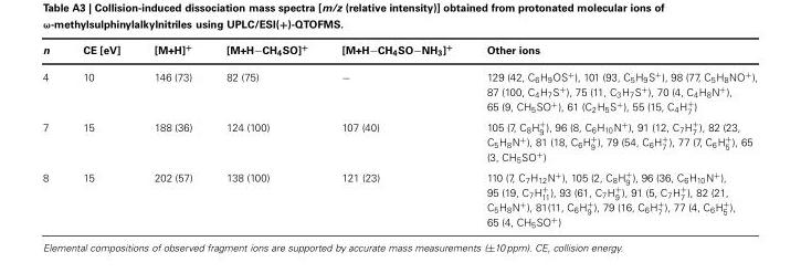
<table><thead><tr><td>n</td><td>CE [eV]</td><td>[M+H]<sup>+</sup></td><td>[M+H−CH<sub>4</sub>SO]<sup>+</sup></td><td>[M+H−CH<sub>4</sub>SO−NH<sub>3</sub>]<sup>+</sup></td><td>Other ions</td></tr></thead><tbody><tr><td>4</td><td>10</td><td>146 (73)</td><td>82 (75)</td><td>−</td><td>129 (42, C<sub>6</sub>H<sub>9</sub>OS<sup>+</sup>), 101 (93, C<sub>5</sub>H<sub>9</sub>S<sup>+</sup>), 98 (77, C<sub>5</sub>H<sub>8</sub>NO<sup>+</sup>), 87 (100, C<sub>4</sub>H<sub>7</sub>S<sup>+</sup>), 75 (11, C<sub>3</sub>H<sub>7</sub>S<sup>+</sup>), 70 (4, C<sub>4</sub>H<sub>8</sub>N<sup>+</sup>), 65 (9, CH<sub>5</sub>SO<sup>+</sup>), 61 (C<sub>2</sub>H<sub>5</sub>S<sup>+</sup>), 55 (15, C<sub>4</sub>H<sup>+</sup> <sub>7</sub> )</td></tr><tr><td>7</td><td>15</td><td>188 (36)</td><td>124 (100)</td><td>107 (40)</td><td>105 (7, C<sub>8</sub>H<sup>+</sup> <sub>9</sub> ), 96 (8, C<sub>6</sub>H<sub>10</sub>N<sup>+</sup>), 91 (12, C<sub>7</sub>H<sup>+</sup> <sub>7</sub> ), 82 (23, C<sub>5</sub>H<sub>8</sub>N<sup>+</sup>), 81 (18, C<sub>6</sub>H<sup>+</sup> <sub>9</sub> ), 79 (54, C<sub>6</sub>H<sup>+</sup> <sub>7</sub> ), 77 (7, C<sub>6</sub>H<sup>+</sup> <sub>5</sub> ), 65 (3, CH<sub>5</sub>SO<sup>+</sup>)</td></tr><tr><td>8</td><td>15</td><td>202 (57)</td><td>138 (100)</td><td>121 (23)</td><td>110 (7, C7H12N+), 105 (2, C8H+ 9 ), 96 (36, C6H10N+), 95 (19, C7H+ 11), 93 (61, C7H+ 9 ), 91 (5, C7H+ 7 ), 82 (21, C5H8N+), 81(11, C6H+ 9 ), 79 (16, C6H+ 7 ), 77 (4, C6H+ 5 ), 65 (4, CH5SO+)</td></tr></tbody></table>